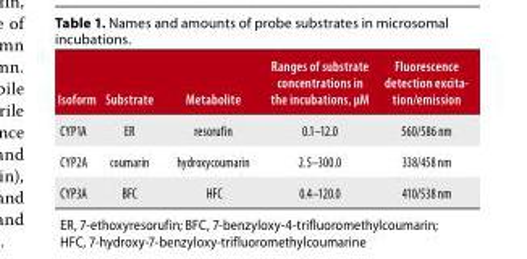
<table><thead><tr><td>Isoform</td><td>Substrate</td><td>Metabolite</td><td>Ranges of substrate concentrations in the incubations, μM</td><td>Fluorescence detection excita- tion/emission</td></tr></thead><tbody><tr><td>CYP1A</td><td>ER</td><td>resorufin</td><td>0.1–12.0</td><td>560/586 nm</td></tr><tr><td>CYP2A</td><td>coumarin</td><td>hydroxycoumarin</td><td>2.5–300.0</td><td>338/458 nm</td></tr><tr><td>CYP3A</td><td>BFC</td><td>HFC</td><td>0.4–120.0</td><td>410/538 nm</td></tr></tbody></table>